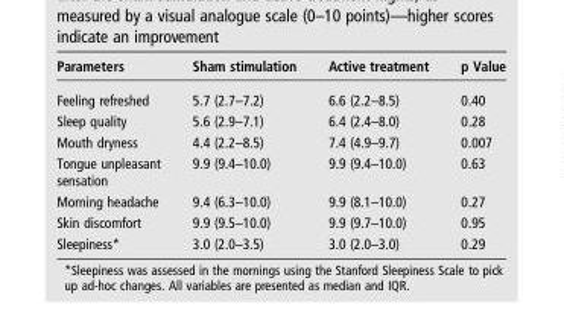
<table><thead><tr><td>Parameters</td><td>Sham stimulation</td><td>Active treatment</td><td>p Value</td></tr></thead><tbody><tr><td>Feeling refreshed</td><td>5.7 (2.7–7.2)</td><td>6.6 (2.2–8.5)</td><td>0.40</td></tr><tr><td>Sleep quality</td><td>5.6 (2.9–7.1)</td><td>6.4 (2.4–8.0)</td><td>0.28</td></tr><tr><td>Mouth dryness</td><td>4.4 (2.2–8.5)</td><td>7.4 (4.9–9.7)</td><td>0.007</td></tr><tr><td>Tongue unpleasant sensation</td><td>9.9 (9.4–10.0)</td><td>9.9 (9.4–10.0)</td><td>0.63</td></tr><tr><td>Morning headache</td><td>9.4 (6.3–10.0)</td><td>9.9 (8.1–10.0)</td><td>0.27</td></tr><tr><td>Skin discomfort</td><td>9.9 (9.5–10.0)</td><td>9.9 (9.7–10.0)</td><td>0.95</td></tr><tr><td>Sleepiness*</td><td>3.0 (2.0–3.5)</td><td>3.0 (2.0–3.0)</td><td>0.29</td></tr></tbody></table>